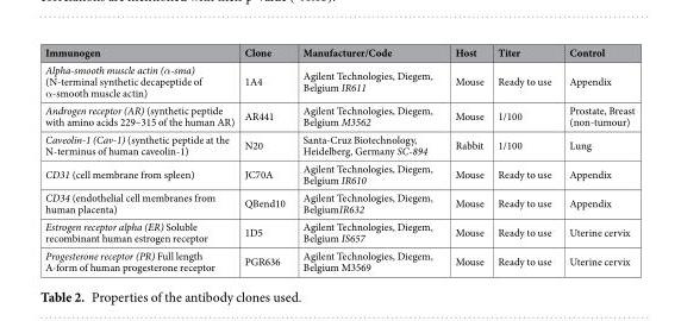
<table><thead><tr><td>Immunogen</td><td>Clone</td><td>Manufacturer/Code</td><td>Host</td><td>Titer</td><td>Control</td></tr></thead><tbody><tr><td>Alpha-smooth muscle actin (α-sma) (N-terminal synthetic decapeptide of α-smooth muscle actin)</td><td>1A4</td><td>Agilent Technologies, Diegem, Belgium IR611</td><td>Mouse</td><td>Ready to use</td><td>Appendix</td></tr><tr><td>Androgen receptor (AR) (synthetic peptide with amino acids 229–315 of the human AR)</td><td>AR441</td><td>Agilent Technologies, Diegem, Belgium M3562</td><td>Mouse</td><td>1/100</td><td>Prostate, Breast (non-tumour)</td></tr><tr><td>Caveolin-1 (Cav-1) (synthetic peptide at the N-terminus of human caveolin-1)</td><td>N20</td><td>Santa-Cruz Biotechnology, Heidelberg, Germany SC-894</td><td>Rabbit</td><td>1/100</td><td>Lung</td></tr><tr><td>CD31 (cell membrane from spleen)</td><td>JC70A</td><td>Agilent Technologies, Diegem, Belgium IR610</td><td>Mouse</td><td>Ready to use</td><td>Appendix</td></tr><tr><td>CD34 (endothelial cell membranes from human placenta)</td><td>QBend10</td><td>Agilent Technologies, Diegem, BelgiumIR632</td><td>Mouse</td><td>Ready to use</td><td>Appendix</td></tr><tr><td>Estrogen receptor alpha (ER) Soluble recombinant human estrogen receptor</td><td>1D5</td><td>Agilent Technologies, Diegem, Belgium IS657</td><td>Mouse</td><td>Ready to use</td><td>Uterine cervix</td></tr><tr><td>Progesterone receptor (PR) Full length A-form of human progesterone receptor</td><td>PGR636</td><td>Agilent Technologies, Diegem, Belgium M3569</td><td>Mouse</td><td>Ready to use</td><td>Uterine cervix</td></tr></tbody></table>